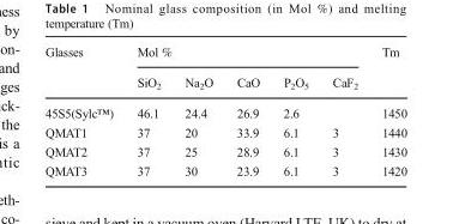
<table><thead><tr><td rowspan="2">Glasses</td><td colspan="5">Mol %</td><td rowspan="2">Tm</td></tr><tr><td>SiO<sub>2</sub></td><td>Na<sub>2</sub>O</td><td>CaO</td><td>P<sub>2</sub>O<sub>5</sub></td><td>CaF<sub>2</sub></td></tr></thead><tbody><tr><td>45S5(Sylc™)</td><td>46.1</td><td>24.4</td><td>26.9</td><td>2.6</td><td></td><td>1450</td></tr><tr><td>QMAT1</td><td>37</td><td>20</td><td>33.9</td><td>6.1</td><td>3</td><td>1440</td></tr><tr><td>QMAT2</td><td>37</td><td>25</td><td>28.9</td><td>6.1</td><td>3</td><td>1430</td></tr><tr><td>QMAT3</td><td>37</td><td>30</td><td>23.9</td><td>6.1</td><td>3</td><td>1420</td></tr></tbody></table>